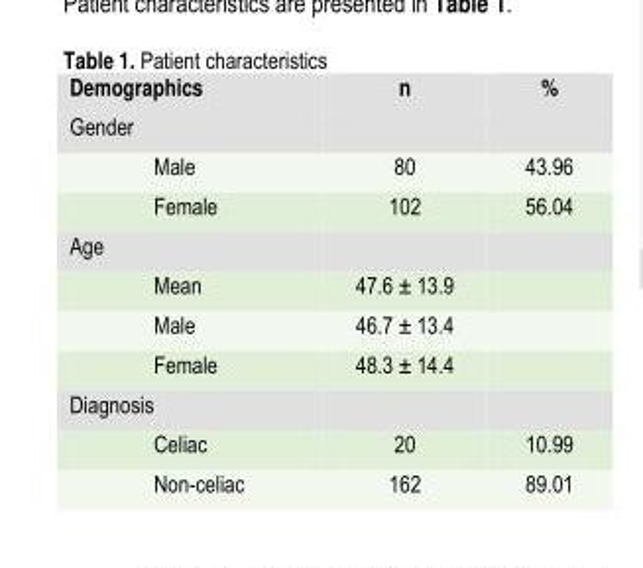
<table><thead><tr><td>Demographics</td><td>n</td><td>%</td></tr></thead><tbody><tr><td colspan="3">Gender</td></tr><tr><td>Male</td><td>80</td><td>43.96</td></tr><tr><td>Female</td><td>102</td><td>56.04</td></tr><tr><td colspan="3">Age</td></tr><tr><td>Mean</td><td>47.6 ± 13.9</td><td></td></tr><tr><td>Male</td><td>46.7 ± 13.4</td><td></td></tr><tr><td>Female</td><td>48.3 ± 14.4</td><td></td></tr><tr><td colspan="3">Diagnosis</td></tr><tr><td>Celiac</td><td>20</td><td>10.99</td></tr><tr><td>Non-celiac</td><td>162</td><td>89.01</td></tr></tbody></table>